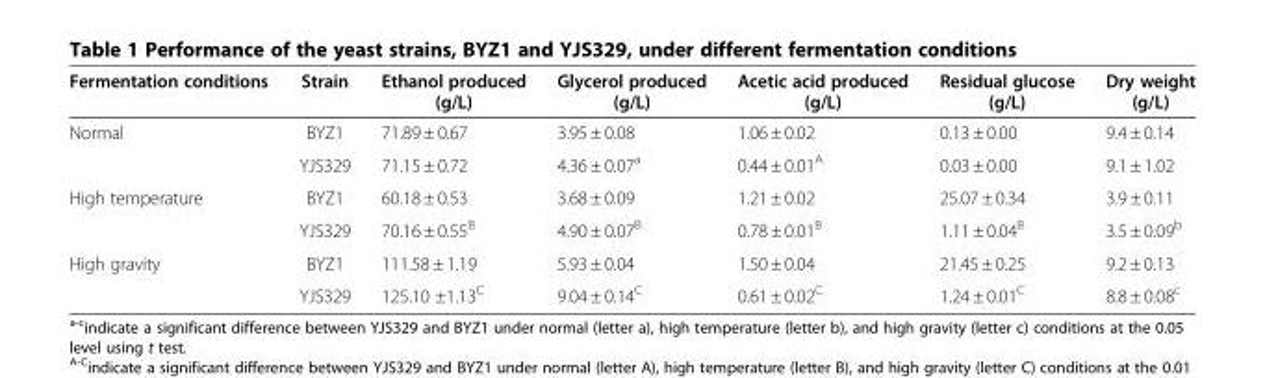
<table><thead><tr><td>Fermentation conditions</td><td>Strain</td><td>Ethanol produced (g/L)</td><td>Glycerol produced (g/L)</td><td>Acetic acid produced (g/L)</td><td>Residual glucose (g/L)</td><td>Dry weight (g/L)</td></tr></thead><tbody><tr><td rowspan="2">Normal</td><td>BYZ1</td><td>71.89 ± 0.67</td><td>3.95 ± 0.08</td><td>1.06 ± 0.02</td><td>0.13 ± 0.00</td><td>9.4 ± 0.14</td></tr><tr><td>YJS329</td><td>71.15 ± 0.72</td><td>4.36 ± 0.07<sup>a</sup></td><td>0.44 ± 0.01<sup>A</sup></td><td>0.03 ± 0.00</td><td>9.1 ± 1.02</td></tr><tr><td rowspan="2">High temperature</td><td>BYZ1</td><td>60.18 ± 0.53</td><td>3.68 ± 0.09</td><td>1.21 ± 0.02</td><td>25.07 ± 0.34</td><td>3.9 ± 0.11</td></tr><tr><td>YJS329</td><td>70.16 ± 0.55<sup>B</sup></td><td>4.90 ± 0.07<sup>B</sup></td><td>0.78 ± 0.01<sup>B</sup></td><td>1.11 ± 0.04<sup>B</sup></td><td>3.5 ± 0.09<sup>b</sup></td></tr><tr><td rowspan="2">High gravity</td><td>BYZ1</td><td>111.58 ± 1.19</td><td>5.93 ± 0.04</td><td>1.50 ± 0.04</td><td>21.45 ± 0.25</td><td>9.2 ± 0.13</td></tr><tr><td>YJS329</td><td>125.10 ±1.13<sup>C</sup></td><td>9.04 ± 0.14<sup>C</sup></td><td>0.61 ± 0.02<sup>C</sup></td><td>1.24 ± 0.01<sup>C</sup></td><td>8.8 ± 0.08<sup>c</sup></td></tr></tbody></table>